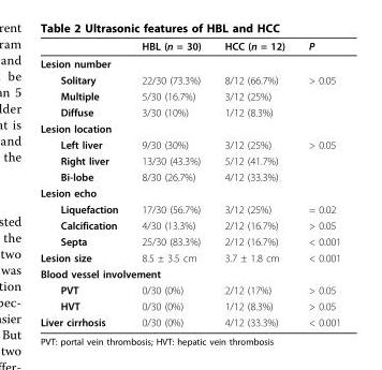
<table><thead><tr><td></td><td>HBL (n = 30)</td><td>HCC (n = 12)</td><td>P</td></tr></thead><tbody><tr><td colspan="4">Lesion number</td></tr><tr><td>Solitary</td><td>22/30 (73.3%)</td><td>8/12 (66.7%)</td><td>&gt; 0.05</td></tr><tr><td>Multiple</td><td>5/30 (16.7%)</td><td>3/12 (25%)</td><td></td></tr><tr><td>Diffuse</td><td>3/30 (10%)</td><td>1/12 (8.3%)</td><td></td></tr><tr><td colspan="4">Lesion location</td></tr><tr><td>Left liver</td><td>9/30 (30%)</td><td>3/12 (25%)</td><td>&gt; 0.05</td></tr><tr><td>Right liver</td><td>13/30 (43.3%)</td><td>5/12 (41.7%)</td><td></td></tr><tr><td>Bi-lobe</td><td>8/30 (26.7%)</td><td>4/12 (33.3%)</td><td></td></tr><tr><td colspan="4">Lesion echo</td></tr><tr><td>Liquefaction</td><td>17/30 (56.7%)</td><td>3/12 (25%)</td><td>= 0.02</td></tr><tr><td>Calcification</td><td>4/30 (13.3%)</td><td>2/12 (16.7%)</td><td>&gt; 0.05</td></tr><tr><td>Septa</td><td>25/30 (83.3%)</td><td>2/12 (16.7%)</td><td>&lt; 0.001</td></tr><tr><td>Lesion size</td><td>8.5 ± 3.5 cm</td><td>3.7 ± 1.8 cm</td><td>&lt; 0.001</td></tr><tr><td colspan="4">Blood vessel involvement</td></tr><tr><td>PVT</td><td>0/30 (0%)</td><td>2/12 (17%)</td><td>&gt; 0.05</td></tr><tr><td>HVT</td><td>0/30 (0%)</td><td>1/12 (8.3%)</td><td>&gt; 0.05</td></tr><tr><td>Liver cirrhosis</td><td>0/30 (0%)</td><td>4/12 (33.3%)</td><td>&lt; 0.001</td></tr></tbody></table>